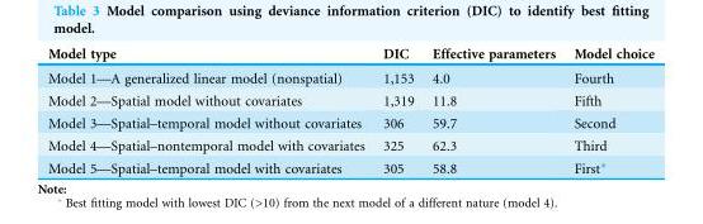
<table><thead><tr><td>Model type</td><td>DIC</td><td>Effective parameters</td><td>Model choice</td></tr></thead><tbody><tr><td>Model 1—A generalized linear model (nonspatial)</td><td>1,153</td><td>4.0</td><td>Fourth</td></tr><tr><td>Model 2—Spatial model without covariates</td><td>1,319</td><td>11.8</td><td>Fifth</td></tr><tr><td>Model 3—Spatial–temporal model without covariates</td><td>306</td><td>59.7</td><td>Second</td></tr><tr><td>Model 4—Spatial–nontemporal model with covariates</td><td>325</td><td>62.3</td><td>Third</td></tr><tr><td>Model 5—Spatial–temporal model with covariates</td><td>305</td><td>58.8</td><td>First*</td></tr></tbody></table>